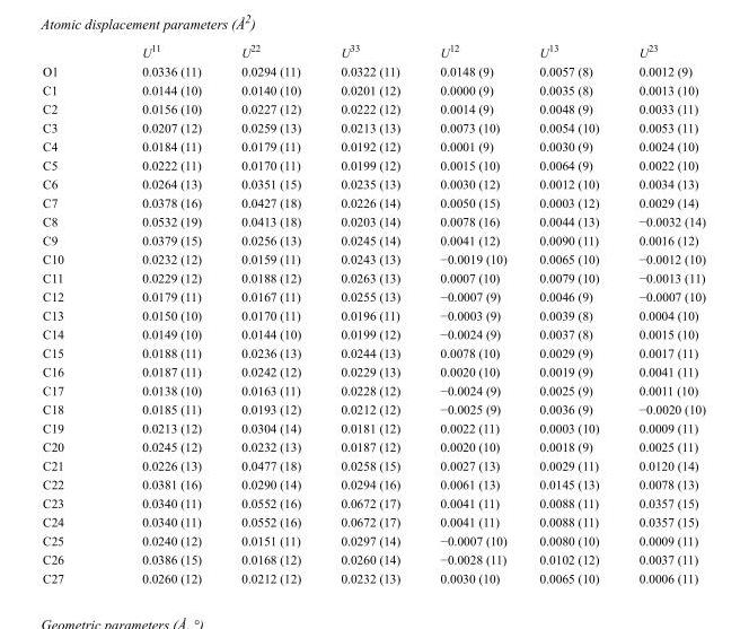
<table><thead><tr><td></td><td>U<sup>11</sup></td><td>U<sup>22</sup></td><td>U<sup>33</sup></td><td>U<sup>12</sup></td><td>U<sup>13</sup></td><td>U<sup>23</sup></td></tr></thead><tbody><tr><td>O1</td><td>0.0336 (11)</td><td>0.0294 (11)</td><td>0.0322 (11)</td><td>0.0148 (9)</td><td>0.0057 (8)</td><td>0.0012 (9)</td></tr><tr><td>C1</td><td>0.0144 (10)</td><td>0.0140 (10)</td><td>0.0201 (12)</td><td>0.0000 (9)</td><td>0.0035 (8)</td><td>0.0013 (10)</td></tr><tr><td>C2</td><td>0.0156 (10)</td><td>0.0227 (12)</td><td>0.0222 (12)</td><td>0.0014 (9)</td><td>0.0048 (9)</td><td>0.0033 (11)</td></tr><tr><td>C3</td><td>0.0207 (12)</td><td>0.0259 (13)</td><td>0.0213 (13)</td><td>0.0073 (10)</td><td>0.0054 (10)</td><td>0.0053 (11)</td></tr><tr><td>C4</td><td>0.0184 (11)</td><td>0.0179 (11)</td><td>0.0192 (12)</td><td>0.0001 (9)</td><td>0.0030 (9)</td><td>0.0024 (10)</td></tr><tr><td>C5</td><td>0.0222 (11)</td><td>0.0170 (11)</td><td>0.0199 (12)</td><td>0.0015 (10)</td><td>0.0064 (9)</td><td>0.0022 (10)</td></tr><tr><td>C6</td><td>0.0264 (13)</td><td>0.0351 (15)</td><td>0.0235 (13)</td><td>0.0030 (12)</td><td>0.0012 (10)</td><td>0.0034 (13)</td></tr><tr><td>C7</td><td>0.0378 (16)</td><td>0.0427 (18)</td><td>0.0226 (14)</td><td>0.0050 (15)</td><td>0.0003 (12)</td><td>0.0029 (14)</td></tr><tr><td>C8</td><td>0.0532 (19)</td><td>0.0413 (18)</td><td>0.0203 (14)</td><td>0.0078 (16)</td><td>0.0044 (13)</td><td>−0.0032 (14)</td></tr><tr><td>C9</td><td>0.0379 (15)</td><td>0.0256 (13)</td><td>0.0245 (14)</td><td>0.0041 (12)</td><td>0.0090 (11)</td><td>0.0016 (12)</td></tr><tr><td>C10</td><td>0.0232 (12)</td><td>0.0159 (11)</td><td>0.0243 (13)</td><td>−0.0019 (10)</td><td>0.0065 (10)</td><td>−0.0012 (10)</td></tr><tr><td>C11</td><td>0.0229 (12)</td><td>0.0188 (12)</td><td>0.0263 (13)</td><td>0.0007 (10)</td><td>0.0079 (10)</td><td>−0.0013 (11)</td></tr><tr><td>C12</td><td>0.0179 (11)</td><td>0.0167 (11)</td><td>0.0255 (13)</td><td>−0.0007 (9)</td><td>0.0046 (9)</td><td>−0.0007 (10)</td></tr><tr><td>C13</td><td>0.0150 (10)</td><td>0.0170 (11)</td><td>0.0196 (11)</td><td>−0.0003 (9)</td><td>0.0039 (8)</td><td>0.0004 (10)</td></tr><tr><td>C14</td><td>0.0149 (10)</td><td>0.0144 (10)</td><td>0.0199 (12)</td><td>−0.0024 (9)</td><td>0.0037 (8)</td><td>0.0015 (10)</td></tr><tr><td>C15</td><td>0.0188 (11)</td><td>0.0236 (13)</td><td>0.0244 (13)</td><td>0.0078 (10)</td><td>0.0029 (9)</td><td>0.0017 (11)</td></tr><tr><td>C16</td><td>0.0187 (11)</td><td>0.0242 (12)</td><td>0.0229 (13)</td><td>0.0020 (10)</td><td>0.0019 (9)</td><td>0.0041 (11)</td></tr><tr><td>C17</td><td>0.0138 (10)</td><td>0.0163 (11)</td><td>0.0228 (12)</td><td>−0.0024 (9)</td><td>0.0025 (9)</td><td>0.0011 (10)</td></tr><tr><td>C18</td><td>0.0185 (11)</td><td>0.0193 (12)</td><td>0.0212 (12)</td><td>−0.0025 (9)</td><td>0.0036 (9)</td><td>−0.0020 (10)</td></tr><tr><td>C19</td><td>0.0213 (12)</td><td>0.0304 (14)</td><td>0.0181 (12)</td><td>0.0022 (11)</td><td>0.0003 (10)</td><td>0.0009 (11)</td></tr><tr><td>C20</td><td>0.0245 (12)</td><td>0.0232 (13)</td><td>0.0187 (12)</td><td>0.0020 (10)</td><td>0.0018 (9)</td><td>0.0025 (11)</td></tr><tr><td>C21</td><td>0.0226 (13)</td><td>0.0477 (18)</td><td>0.0258 (15)</td><td>0.0027 (13)</td><td>0.0029 (11)</td><td>0.0120 (14)</td></tr><tr><td>C22</td><td>0.0381 (16)</td><td>0.0290 (14)</td><td>0.0294 (16)</td><td>0.0061 (13)</td><td>0.0145 (13)</td><td>0.0078 (13)</td></tr><tr><td>C23</td><td>0.0340 (11)</td><td>0.0552 (16)</td><td>0.0672 (17)</td><td>0.0041 (11)</td><td>0.0088 (11)</td><td>0.0357 (15)</td></tr><tr><td>C24</td><td>0.0340 (11)</td><td>0.0552 (16)</td><td>0.0672 (17)</td><td>0.0041 (11)</td><td>0.0088 (11)</td><td>0.0357 (15)</td></tr><tr><td>C25</td><td>0.0240 (12)</td><td>0.0151 (11)</td><td>0.0297 (14)</td><td>−0.0007 (10)</td><td>0.0080 (10)</td><td>0.0009 (11)</td></tr><tr><td>C26</td><td>0.0386 (15)</td><td>0.0168 (12)</td><td>0.0260 (14)</td><td>−0.0028 (11)</td><td>0.0102 (12)</td><td>0.0037 (11)</td></tr><tr><td>C27</td><td>0.0260 (12)</td><td>0.0212 (12)</td><td>0.0232 (13)</td><td>0.0030 (10)</td><td>0.0065 (10)</td><td>0.0006 (11)</td></tr></tbody></table>